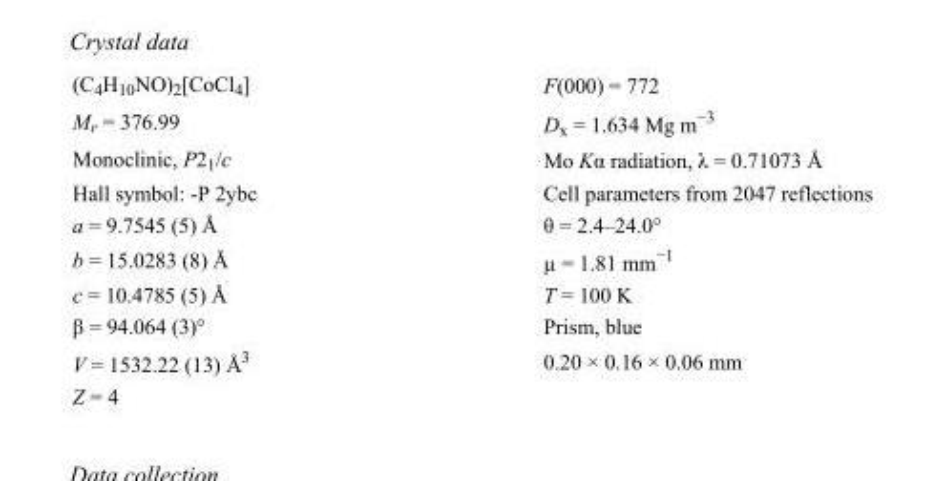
<table><tbody><tr><td>(C<sub>4</sub>H<sub>10</sub>NO)<sub>2</sub>[CoCl<sub>4</sub>]</td><td>F(000) = 772</td></tr><tr><td>M<sub>r</sub> = 376.99</td><td>D<sub>x</sub> = 1.634 Mg m<sup>−3</sup></td></tr><tr><td>Monoclinic, P2<sub>1</sub>/c</td><td>Mo Kα radiation, λ = 0.71073 Å</td></tr><tr><td>Hall symbol: -P 2ybc</td><td>Cell parameters from 2047 reflections</td></tr><tr><td>a = 9.7545 (5) Å</td><td>θ = 2.4–24.0°</td></tr><tr><td>b = 15.0283 (8) Å</td><td>µ = 1.81 mm<sup>−1</sup></td></tr><tr><td>c = 10.4785 (5) Å</td><td>T = 100 K</td></tr><tr><td>β = 94.064 (3)°</td><td>Prism, blue</td></tr><tr><td>V = 1532.22 (13) Å<sup>3</sup></td><td>0.20 × 0.16 × 0.06 mm</td></tr><tr><td>Z = 4</td><td></td></tr></tbody></table>